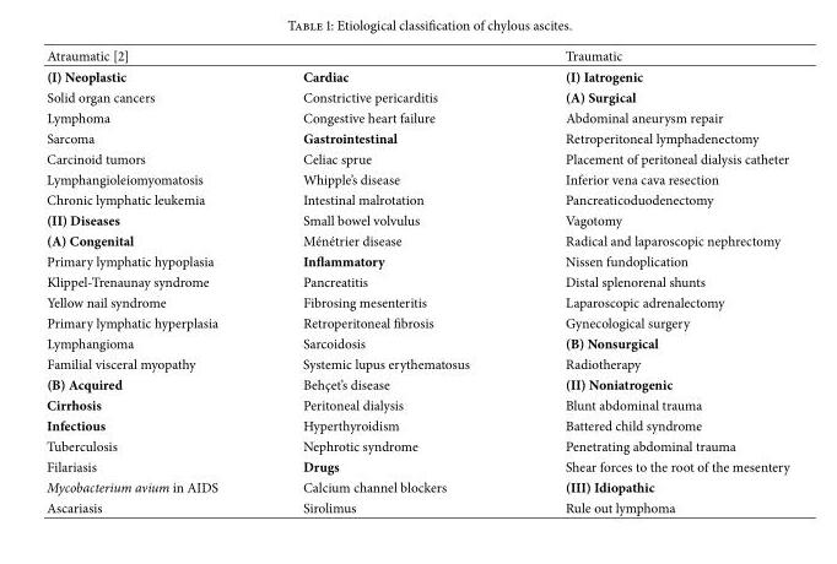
<table><thead><tr><td>Atraumatic [2]</td><td></td><td>Traumatic</td></tr></thead><tbody><tr><td>(I) Neoplastic</td><td>Cardiac</td><td>(I) Iatrogenic</td></tr><tr><td>Solid organ cancers</td><td>Constrictive pericarditis</td><td>(A) Surgical</td></tr><tr><td>Lymphoma</td><td>Congestive heart failure</td><td>Abdominal aneurysm repair</td></tr><tr><td>Sarcoma</td><td>Gastrointestinal</td><td>Retroperitoneal lymphadenectomy</td></tr><tr><td>Carcinoid tumors</td><td>Celiac sprue</td><td>Placement of peritoneal dialysis catheter</td></tr><tr><td>Lymphangioleiomyomatosis</td><td>Whipple’s disease</td><td>Inferior vena cava resection</td></tr><tr><td>Chronic lymphatic leukemia</td><td>Intestinal malrotation</td><td>Pancreaticoduodenectomy</td></tr><tr><td>(II) Diseases</td><td>Small bowel volvulus</td><td>Vagotomy</td></tr><tr><td>(A) Congenital</td><td>M´en´etrier disease</td><td>Radical and laparoscopic nephrectomy</td></tr><tr><td>Primary lymphatic hypoplasia</td><td>Inflammatory</td><td>Nissen fundoplication</td></tr><tr><td>Klippel-Trenaunay syndrome</td><td>Pancreatitis</td><td>Distal splenorenal shunts</td></tr><tr><td>Yellow nail syndrome</td><td>Fibrosing mesenteritis</td><td>Laparoscopic adrenalectomy</td></tr><tr><td>Primary lymphatic hyperplasia</td><td>Retroperitoneal fibrosis</td><td>Gynecological surgery</td></tr><tr><td>Lymphangioma</td><td>Sarcoidosis</td><td>(B) Nonsurgical</td></tr><tr><td>Familial visceral myopathy</td><td>Systemic lupus erythematosus</td><td>Radiotherapy</td></tr><tr><td>(B) Acquired</td><td>Behc¸et’s disease</td><td>(II) Noniatrogenic</td></tr><tr><td>Cirrhosis</td><td>Peritoneal dialysis</td><td>Blunt abdominal trauma</td></tr><tr><td>Infectious</td><td>Hyperthyroidism</td><td>Battered child syndrome</td></tr><tr><td>Tuberculosis</td><td>Nephrotic syndrome</td><td>Penetrating abdominal trauma</td></tr><tr><td>Filariasis</td><td>Drugs</td><td>Shear forces to the root of the mesentery</td></tr><tr><td>Mycobacterium avium in AIDS</td><td>Calcium channel blockers</td><td>(III) Idiopathic</td></tr><tr><td>Ascariasis</td><td>Sirolimus</td><td>Rule out lymphoma</td></tr></tbody></table>